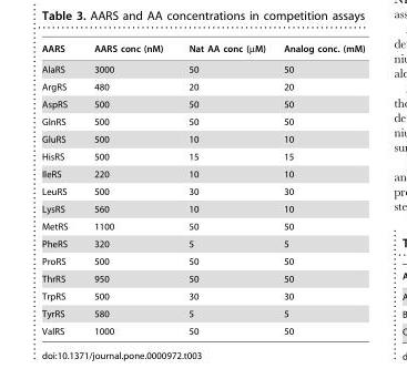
<table><thead><tr><td>AARS</td><td>AARS conc (nM)</td><td>Nat AA conc (µM)</td><td>Analog conc. (mM)</td></tr></thead><tbody><tr><td>AlaRS</td><td>3000</td><td>50</td><td>50</td></tr><tr><td>ArgRS</td><td>480</td><td>20</td><td>20</td></tr><tr><td>AspRS</td><td>500</td><td>50</td><td>50</td></tr><tr><td>GlnRS</td><td>500</td><td>50</td><td>50</td></tr><tr><td>GluRS</td><td>500</td><td>10</td><td>10</td></tr><tr><td>HisRS</td><td>500</td><td>15</td><td>15</td></tr><tr><td>IleRS</td><td>220</td><td>10</td><td>10</td></tr><tr><td>LeuRS</td><td>500</td><td>30</td><td>30</td></tr><tr><td>LysRS</td><td>560</td><td>10</td><td>10</td></tr><tr><td>MetRS</td><td>1100</td><td>50</td><td>50</td></tr><tr><td>PheRS</td><td>320</td><td>5</td><td>5</td></tr><tr><td>ProRS</td><td>500</td><td>50</td><td>50</td></tr><tr><td>ThrRS</td><td>950</td><td>50</td><td>50</td></tr><tr><td>TrpRS</td><td>500</td><td>30</td><td>30</td></tr><tr><td>TyrRS</td><td>580</td><td>5</td><td>5</td></tr><tr><td>ValRS</td><td>1000</td><td>50</td><td>50</td></tr></tbody></table>